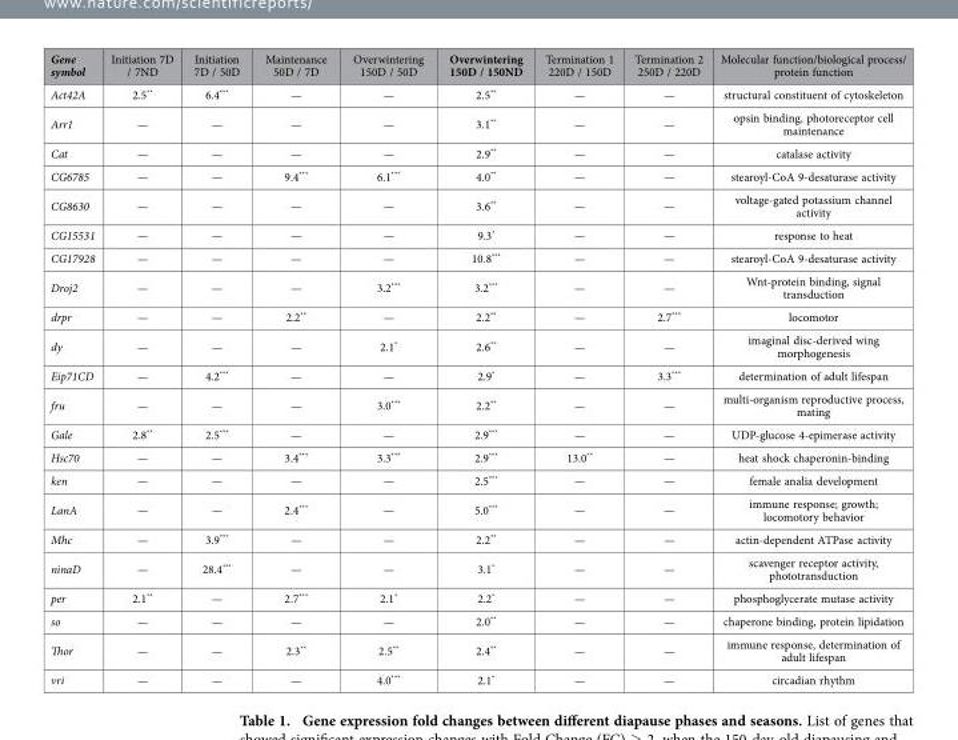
<table><thead><tr><td>Gene symbol</td><td>Initiation 7D / 7ND</td><td>Initiation 7D / 50D</td><td>Maintenance 50D / 7D</td><td>Overwintering 150D / 50D</td><td>Overwintering 150D / 150ND</td><td>Termination 1 220D / 150D</td><td>Termination 2 250D / 220D</td><td>Molecular function/biological process/ protein function</td></tr></thead><tbody><tr><td>Act42A</td><td>2.5**</td><td>6.4***</td><td>—</td><td>—</td><td>2.5**</td><td>—</td><td>—</td><td>structural constituent of cytoskeleton</td></tr><tr><td>Arr1</td><td>—</td><td>—</td><td>—</td><td>—</td><td>3.1**</td><td>—</td><td>—</td><td>opsin binding, photoreceptor cell maintenance</td></tr><tr><td>Cat</td><td>—</td><td>—</td><td>—</td><td>—</td><td>2.9**</td><td>—</td><td>—</td><td>catalase activity</td></tr><tr><td>CG6785</td><td>—</td><td>—</td><td>9.4***</td><td>6.1***</td><td>4.0**</td><td>—</td><td>—</td><td>stearoyl-CoA 9-desaturase activity</td></tr><tr><td>CG8630</td><td>—</td><td>—</td><td>—</td><td>—</td><td>3.6**</td><td>—</td><td>—</td><td>voltage-gated potassium channel activity</td></tr><tr><td>CG15531</td><td>—</td><td>—</td><td>—</td><td>—</td><td>9.3*</td><td>—</td><td>—</td><td>response to heat</td></tr><tr><td>CG17928</td><td>—</td><td>—</td><td>—</td><td>—</td><td>10.8***</td><td>—</td><td>—</td><td>stearoyl-CoA 9-desaturase activity</td></tr><tr><td>Droj2</td><td>—</td><td>—</td><td>—</td><td>3.2***</td><td>3.2***</td><td>—</td><td>—</td><td>Wnt-protein binding, signal transduction</td></tr><tr><td>drpr</td><td>—</td><td>—</td><td>2.2**</td><td>—</td><td>2.2**</td><td>—</td><td>2.7***</td><td>locomotor</td></tr><tr><td>dy</td><td>—</td><td>—</td><td>—</td><td>2.1*</td><td>2.6**</td><td>—</td><td>—</td><td>imaginal disc-derived wing morphogenesis</td></tr><tr><td>Eip71CD</td><td>—</td><td>4.2***</td><td>—</td><td>—</td><td>2.9*</td><td>—</td><td>3.3***</td><td>determination of adult lifespan</td></tr><tr><td>fru</td><td>—</td><td>—</td><td>—</td><td>3.0***</td><td>2.2**</td><td>—</td><td>—</td><td>multi-organism reproductive process, mating</td></tr><tr><td>Gale</td><td>2.8**</td><td>2.5***</td><td>—</td><td>—</td><td>2.9***</td><td>—</td><td>—</td><td>UDP-glucose 4-epimerase activity</td></tr><tr><td>Hsc70</td><td>—</td><td>—</td><td>3.4***</td><td>3.3***</td><td>2.9***</td><td>13.0**</td><td>—</td><td>heat shock chaperonin-binding</td></tr><tr><td>ken</td><td>—</td><td>—</td><td>—</td><td>—</td><td>2.5***</td><td>—</td><td>—</td><td>female analia development</td></tr><tr><td>LanA</td><td>—</td><td>—</td><td>2.4***</td><td>—</td><td>5.0***</td><td>—</td><td>—</td><td>immune response; growth; locomotory behavior</td></tr><tr><td>Mhc</td><td>—</td><td>3.9***</td><td>—</td><td>—</td><td>2.2**</td><td>—</td><td>—</td><td>actin-dependent ATPase activity</td></tr><tr><td>ninaD</td><td>—</td><td>28.4***</td><td>—</td><td>—</td><td>3.1*</td><td>—</td><td>—</td><td>scavenger receptor activity, phototransduction</td></tr><tr><td>per</td><td>2.1**</td><td>—</td><td>2.7***</td><td>2.1*</td><td>2.2*</td><td>—</td><td>—</td><td>phosphoglycerate mutase activity</td></tr><tr><td>so</td><td>—</td><td>—</td><td>—</td><td>—</td><td>2.0**</td><td>—</td><td>—</td><td>chaperone binding, protein lipidation</td></tr><tr><td>Thor</td><td>—</td><td>—</td><td>2.3**</td><td>2.5**</td><td>2.4**</td><td>—</td><td>—</td><td>immune response, determination of adult lifespan</td></tr><tr><td>vri</td><td>—</td><td>—</td><td>—</td><td>4.0***</td><td>2.1*</td><td>—</td><td>—</td><td>circadian rhythm</td></tr></tbody></table>